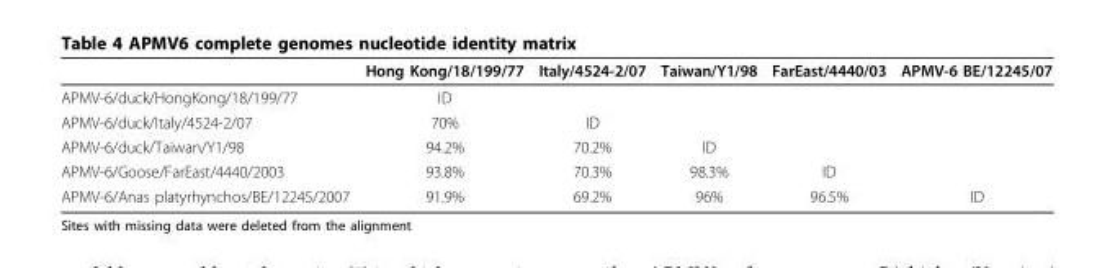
<table><thead><tr><td></td><td>Hong Kong/18/199/77</td><td>Italy/4524-2/07</td><td>Taiwan/Y1/98</td><td>FarEast/4440/03</td><td>APMV-6 BE/12245/07</td></tr></thead><tbody><tr><td>APMV-6/duck/HongKong/18/199/77</td><td>ID</td><td></td><td></td><td></td><td></td></tr><tr><td>APMV-6/duck/Italy/4524-2/07</td><td>70%</td><td>ID</td><td></td><td></td><td></td></tr><tr><td>APMV-6/duck/Taiwan/Y1/98</td><td>94.2%</td><td>70.2%</td><td>ID</td><td></td><td></td></tr><tr><td>APMV-6/Goose/FarEast/4440/2003</td><td>93.8%</td><td>70.3%</td><td>98.3%</td><td>ID</td><td></td></tr><tr><td>APMV-6/Anas platyrhynchos/BE/12245/2007</td><td>91.9%</td><td>69.2%</td><td>96%</td><td>96.5%</td><td>ID</td></tr></tbody></table>